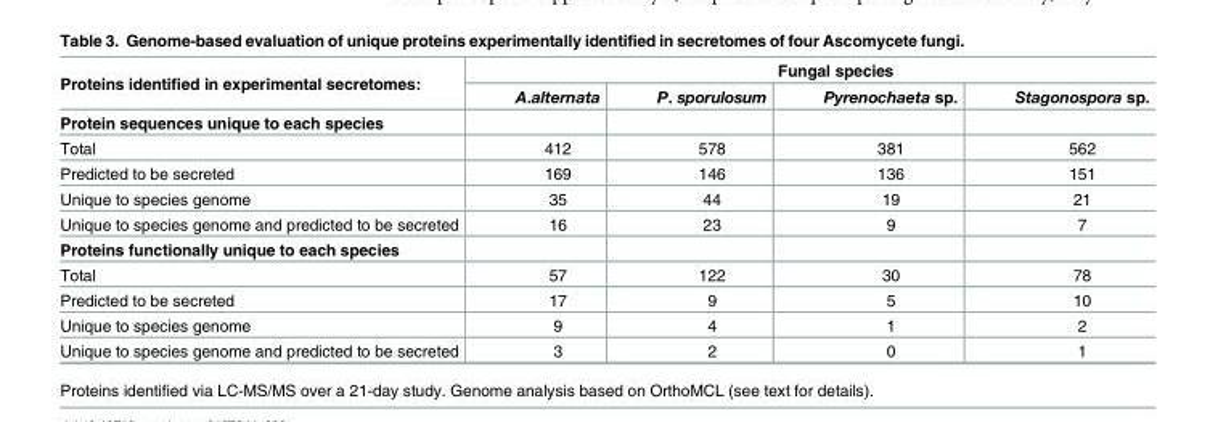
<table><thead><tr><td rowspan="2">Proteins identified in experimental secretomes:</td><td colspan="4">Fungal species</td></tr><tr><td>A.alternata</td><td>P. sporulosum</td><td>Pyrenochaeta sp.</td><td>Stagonospora sp.</td></tr></thead><tbody><tr><td colspan="5">Protein sequences unique to each species</td></tr><tr><td>Total</td><td>412</td><td>578</td><td>381</td><td>562</td></tr><tr><td>Predicted to be secreted</td><td>169</td><td>146</td><td>136</td><td>151</td></tr><tr><td>Unique to species genome</td><td>35</td><td>44</td><td>19</td><td>21</td></tr><tr><td>Unique to species genome and predicted to be secreted</td><td>16</td><td>23</td><td>9</td><td>7</td></tr><tr><td colspan="5">Proteins functionally unique to each species</td></tr><tr><td>Total</td><td>57</td><td>122</td><td>30</td><td>78</td></tr><tr><td>Predicted to be secreted</td><td>17</td><td>9</td><td>5</td><td>10</td></tr><tr><td>Unique to species genome</td><td>9</td><td>4</td><td>1</td><td>2</td></tr><tr><td>Unique to species genome and predicted to be secreted</td><td>3</td><td>2</td><td>0</td><td>1</td></tr></tbody></table>